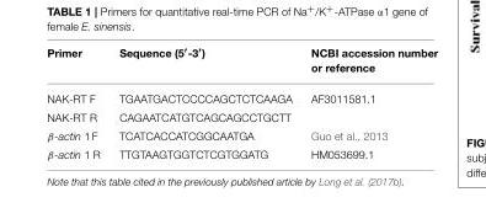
<table><thead><tr><td>Primer</td><td>Sequence (5′-3′)</td><td>NCBI accession number or reference</td></tr></thead><tbody><tr><td>NAK-RT F</td><td>TGAATGACTCCCCAGCTCTCAAGA</td><td>AF3011581.1</td></tr><tr><td>NAK-RT R</td><td>CAGAATCATGTCAGCAGCCTGCTT</td><td></td></tr><tr><td>β-actin 1 F</td><td>TCATCACCATCGGCAATGA</td><td>Guo et al., 2013</td></tr><tr><td>β-actin 1 R</td><td>TTGTAAGTGGTCTCGTGGATG</td><td>HM053699.1</td></tr></tbody></table>